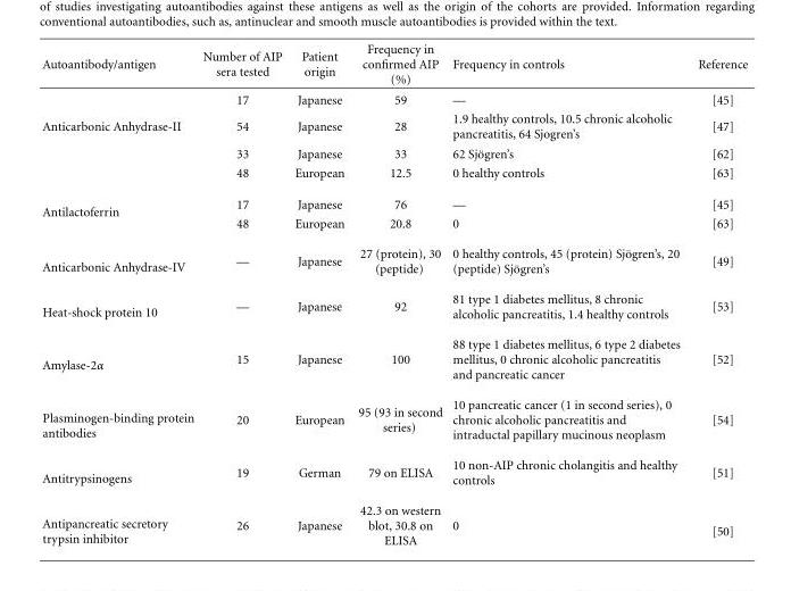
<table><thead><tr><td>Autoantibody/antigen</td><td>Number of AIP sera tested</td><td>Patient origin</td><td>Frequency in confirmed AIP (%)</td><td>Frequency in controls</td><td>Reference</td></tr></thead><tbody><tr><td rowspan="4">Anticarbonic Anhydrase-II</td><td>17</td><td>Japanese</td><td>59</td><td>—</td><td>[45]</td></tr><tr><td>54</td><td>Japanese</td><td>28</td><td>1.9 healthy controls, 10.5 chronic alcoholic pancreatitis, 64 Sjogren’s</td><td>[47]</td></tr><tr><td>33</td><td>Japanese</td><td>33</td><td>62 Sj¨ogren’s</td><td>[62]</td></tr><tr><td>48</td><td>European</td><td>12.5</td><td>0 healthy controls</td><td>[63]</td></tr><tr><td rowspan="2">Antilactoferrin</td><td>17</td><td>Japanese</td><td>76</td><td>—</td><td>[45]</td></tr><tr><td>48</td><td>European</td><td>20.8</td><td>0</td><td>[63]</td></tr><tr><td>Anticarbonic Anhydrase-IV</td><td>—</td><td>Japanese</td><td>27 (protein), 30 (peptide)</td><td>0 healthy controls, 45 (protein) Sj¨ogren’s, 20 (peptide) Sj¨ogren’s</td><td>[49]</td></tr><tr><td>Heat-shock protein 10</td><td>—</td><td>Japanese</td><td>92</td><td>81 type 1 diabetes mellitus, 8 chronic alcoholic pancreatitis, 1.4 healthy controls</td><td>[53]</td></tr><tr><td>Amylase-2α</td><td>15</td><td>Japanese</td><td>100</td><td>88 type 1 diabetes mellitus, 6 type 2 diabetes mellitus, 0 chronic alcoholic pancreatitis and pancreatic cancer</td><td>[52]</td></tr><tr><td>Plasminogen-binding protein antibodies</td><td>20</td><td>European</td><td>95 (93 in second series)</td><td>10 pancreatic cancer (1 in second series), 0 chronic alcoholic pancreatitis and intraductal papillary mucinous neoplasm</td><td>[54]</td></tr><tr><td>Antitrypsinogens</td><td>19</td><td>German</td><td>79 on ELISA</td><td>10 non-AIP chronic cholangitis and healthy controls</td><td>[51]</td></tr><tr><td>Antipancreatic secretory trypsin inhibitor</td><td>26</td><td>Japanese</td><td>42.3 on western blot, 30.8 on ELISA</td><td>0</td><td>[50]</td></tr></tbody></table>